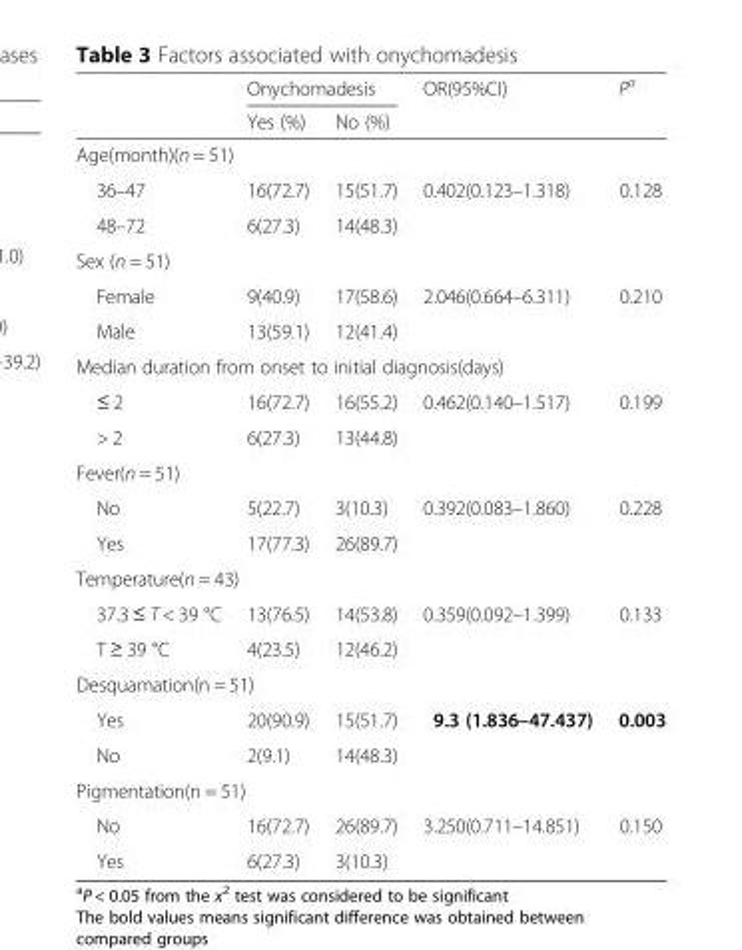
<table><thead><tr><td rowspan="2"></td><td colspan="2">Onychomadesis</td><td rowspan="2">OR(95%CI)</td><td rowspan="2">P<sup>a</sup></td></tr><tr><td>Yes (%)</td><td>No (%)</td></tr></thead><tbody><tr><td colspan="5">Age(month)(n = 51)</td></tr><tr><td>36–47</td><td>16(72.7)</td><td>15(51.7)</td><td>0.402(0.123–1.318)</td><td>0.128</td></tr><tr><td>48–72</td><td>6(27.3)</td><td>14(48.3)</td><td></td><td></td></tr><tr><td colspan="5">Sex (n = 51)</td></tr><tr><td>Female</td><td>9(40.9)</td><td>17(58.6)</td><td>2.046(0.664–6.311)</td><td>0.210</td></tr><tr><td>Male</td><td>13(59.1)</td><td>12(41.4)</td><td></td><td></td></tr><tr><td colspan="5">Median duration from onset to initial diagnosis(days)</td></tr><tr><td>≤ 2</td><td>16(72.7)</td><td>16(55.2)</td><td>0.462(0.140–1.517)</td><td>0.199</td></tr><tr><td>&gt; 2</td><td>6(27.3)</td><td>13(44.8)</td><td></td><td></td></tr><tr><td colspan="5">Fever(n = 51)</td></tr><tr><td>No</td><td>5(22.7)</td><td>3(10.3)</td><td>0.392(0.083–1.860)</td><td>0.228</td></tr><tr><td>Yes</td><td>17(77.3)</td><td>26(89.7)</td><td></td><td></td></tr><tr><td colspan="5">Temperature(n = 43)</td></tr><tr><td>37.3 ≤ T &lt; 39 °C</td><td>13(76.5)</td><td>14(53.8)</td><td>0.359(0.092–1.399)</td><td>0.133</td></tr><tr><td>T ≥ 39 °C</td><td>4(23.5)</td><td>12(46.2)</td><td></td><td></td></tr><tr><td colspan="5">Desquamation(n = 51)</td></tr><tr><td>Yes</td><td>20(90.9)</td><td>15(51.7)</td><td>9.3 (1.836–47.437)</td><td>0.003</td></tr><tr><td>No</td><td>2(9.1)</td><td>14(48.3)</td><td></td><td></td></tr><tr><td colspan="5">Pigmentation(n = 51)</td></tr><tr><td>No</td><td>16(72.7)</td><td>26(89.7)</td><td>3.250(0.711–14.851)</td><td>0.150</td></tr><tr><td>Yes</td><td>6(27.3)</td><td>3(10.3)</td><td></td><td></td></tr></tbody></table>